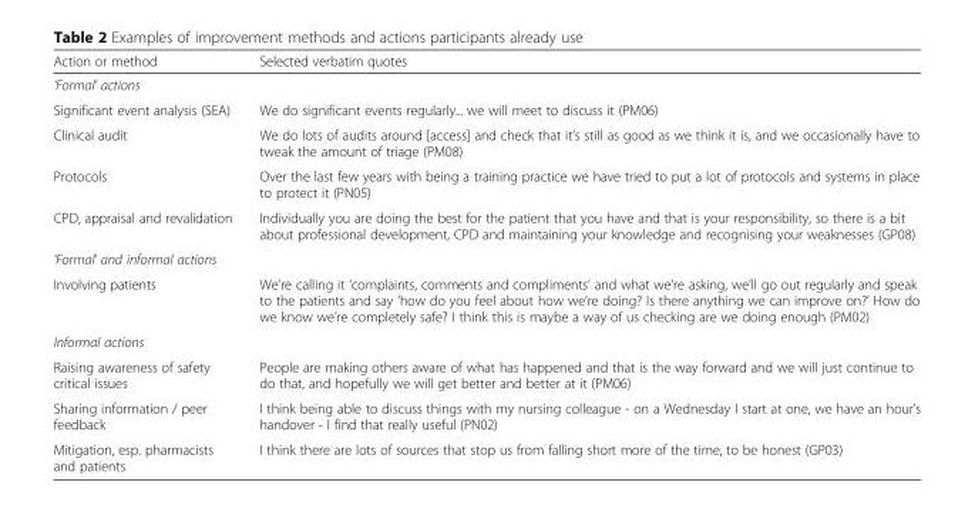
<table><thead><tr><td>Action or method</td><td>Selected verbatim quotes</td></tr></thead><tbody><tr><td colspan="2">‘Formal’ actions</td></tr><tr><td>Significant event analysis (SEA)</td><td>We do significant events regularly... we will meet to discuss it (PM06)</td></tr><tr><td>Clinical audit</td><td>We do lots of audits around [access] and check that it’s still as good as we think it is, and we occasionally have to tweak the amount of triage (PM08)</td></tr><tr><td>Protocols</td><td>Over the last few years with being a training practice we have tried to put a lot of protocols and systems in place to protect it (PN05)</td></tr><tr><td>CPD, appraisal and revalidation</td><td>Individually you are doing the best for the patient that you have and that is your responsibility, so there is a bit about professional development, CPD and maintaining your knowledge and recognising your weaknesses (GP08)</td></tr><tr><td colspan="2">‘Formal’ and informal actions</td></tr><tr><td>Involving patients</td><td>We’re calling it ‘complaints, comments and compliments’ and what we’re asking, we’ll go out regularly and speak to the patients and say ‘how do you feel about how we’re doing? Is there anything we can improve on?’ How do we know we’re completely safe? I think this is maybe a way of us checking are we doing enough (PM02)</td></tr><tr><td colspan="2">Informal actions</td></tr><tr><td>Raising awareness of safety critical issues</td><td>People are making others aware of what has happened and that is the way forward and we will just continue to do that, and hopefully we will get better and better at it (PM06)</td></tr><tr><td>Sharing information / peer feedback</td><td>I think being able to discuss things with my nursing colleague - on a Wednesday I start at one, we have an hour’s handover - I find that really useful (PN02)</td></tr><tr><td>Mitigation, esp. pharmacists and patients</td><td>I think there are lots of sources that stop us from falling short more of the time, to be honest (GP03)</td></tr></tbody></table>